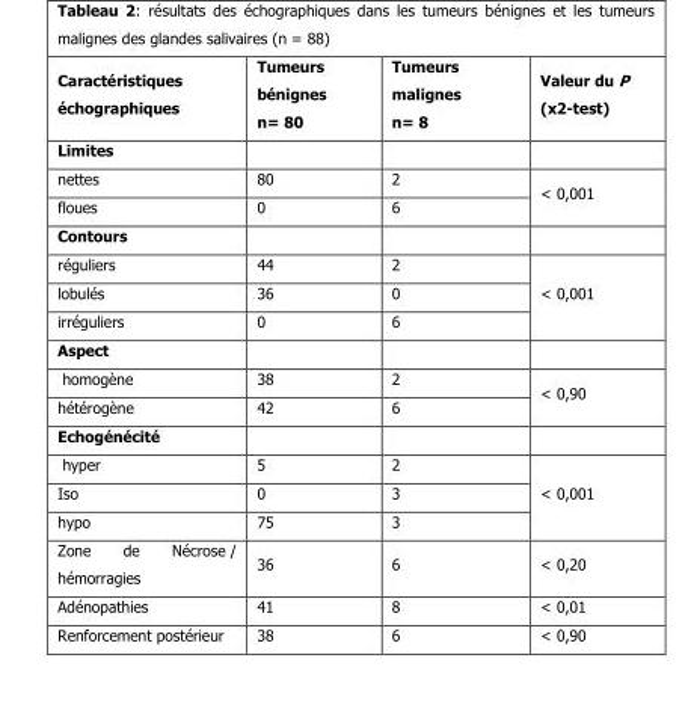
<table><thead><tr><td>Caractéristiques échographiques</td><td>Tumeurs bénignes n= 80</td><td>Tumeurs malignes n= 8</td><td>Valeur du P (x2-test)</td></tr></thead><tbody><tr><td colspan="4">Limites</td></tr><tr><td>nettes</td><td>80</td><td>2</td><td rowspan="2">&lt; 0,001</td></tr><tr><td>floues</td><td>0</td><td>6</td></tr><tr><td colspan="4">Contours</td></tr><tr><td>réguliers</td><td>44</td><td>2</td><td rowspan="3">&lt; 0,001</td></tr><tr><td>lobulés</td><td>36</td><td>0</td></tr><tr><td>irréguliers</td><td>0</td><td>6</td></tr><tr><td colspan="4">Aspect</td></tr><tr><td>homogène</td><td>38</td><td>2</td><td rowspan="2">&lt; 0,90</td></tr><tr><td>hétérogène</td><td>42</td><td>6</td></tr><tr><td colspan="4">Echogénécité</td></tr><tr><td>hyper</td><td>5</td><td>2</td><td rowspan="3">&lt; 0,001</td></tr><tr><td>Iso</td><td>0</td><td>3</td></tr><tr><td>hypo</td><td>75</td><td>3</td></tr><tr><td>Zone de Nécrose / hémorragies</td><td>36</td><td>6</td><td>&lt; 0,20</td></tr><tr><td>Adénopathies</td><td>41</td><td>8</td><td>&lt; 0,01</td></tr><tr><td>Renforcement postérieur</td><td>38</td><td>6</td><td>&lt; 0,90</td></tr></tbody></table>